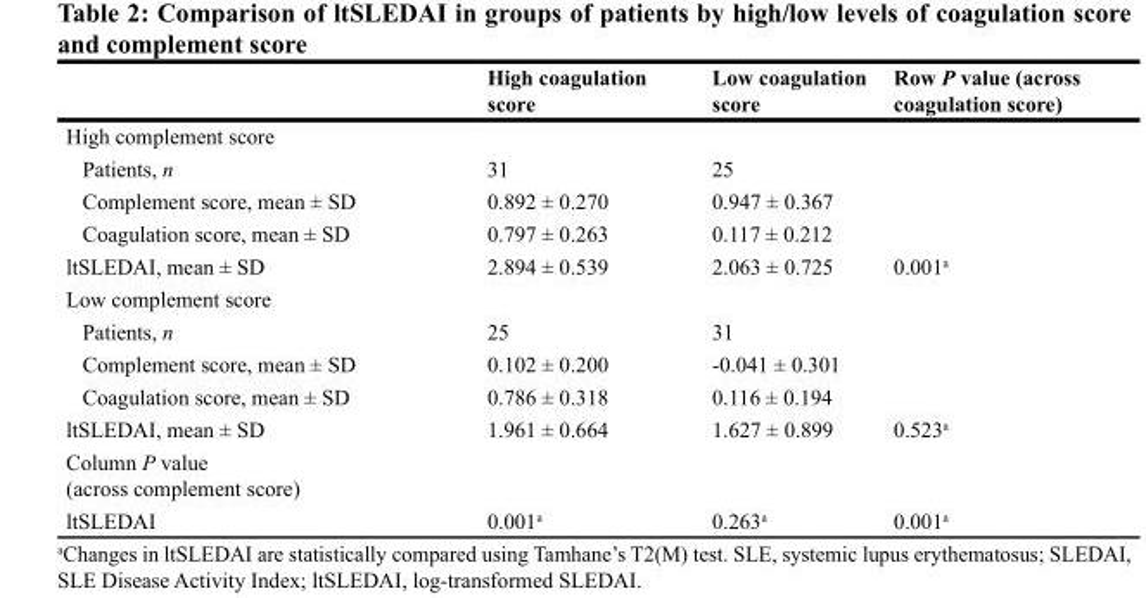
<table><thead><tr><td></td><td>High coagulation score</td><td>Low coagulation score</td><td>Row P value (across coagulation score)</td></tr></thead><tbody><tr><td colspan="4">High complement score</td></tr><tr><td>Patients, n</td><td>31</td><td>25</td><td></td></tr><tr><td>Complement score, mean ± SD</td><td>0.892 ± 0.270</td><td>0.947 ± 0.367</td><td></td></tr><tr><td>Coagulation score, mean ± SD</td><td>0.797 ± 0.263</td><td>0.117 ± 0.212</td><td></td></tr><tr><td>ltSLEDAI, mean ± SD</td><td>2.894 ± 0.539</td><td>2.063 ± 0.725</td><td>0.001<sup>a</sup></td></tr><tr><td colspan="4">Low complement score</td></tr><tr><td>Patients, n</td><td>25</td><td>31</td><td></td></tr><tr><td>Complement score, mean ± SD</td><td>0.102 ± 0.200</td><td>-0.041 ± 0.301</td><td></td></tr><tr><td>Coagulation score, mean ± SD</td><td>0.786 ± 0.318</td><td>0.116 ± 0.194</td><td></td></tr><tr><td>ltSLEDAI, mean ± SD</td><td>1.961 ± 0.664</td><td>1.627 ± 0.899</td><td>0.523<sup>a</sup></td></tr><tr><td colspan="4">Column P value (across complement score)</td></tr><tr><td>ltSLEDAI</td><td>0.001<sup>a</sup></td><td>0.263<sup>a</sup></td><td>0.001<sup>a</sup></td></tr></tbody></table>